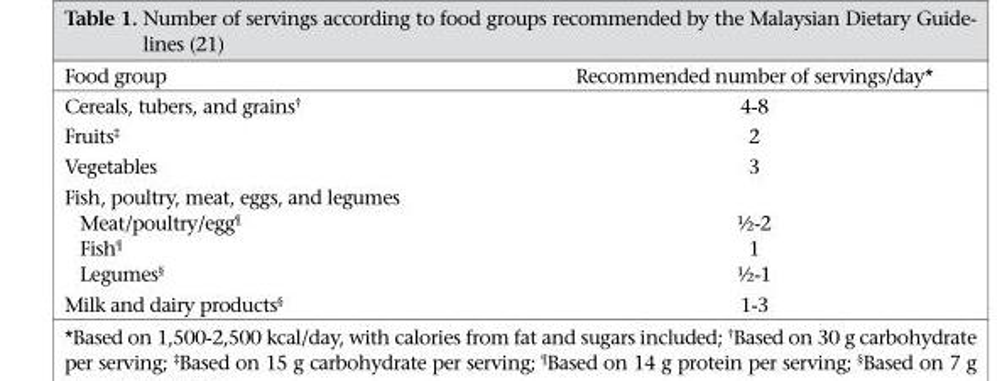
<table><thead><tr><td>Food group</td><td>Recommended number of servings/day*</td></tr></thead><tbody><tr><td>Cereals, tubers, and grains†</td><td>4-8</td></tr><tr><td>Fruits‡</td><td>2</td></tr><tr><td>Vegetables</td><td>3</td></tr><tr><td colspan="2">Fish, poultry, meat, eggs, and legumes</td></tr><tr><td>Meat/poultry/egg¶ Fish¶ Legumes§</td><td>½-2 1 ½-1</td></tr><tr><td>Milk and dairy products<sup>§</sup></td><td>1-3</td></tr></tbody></table>